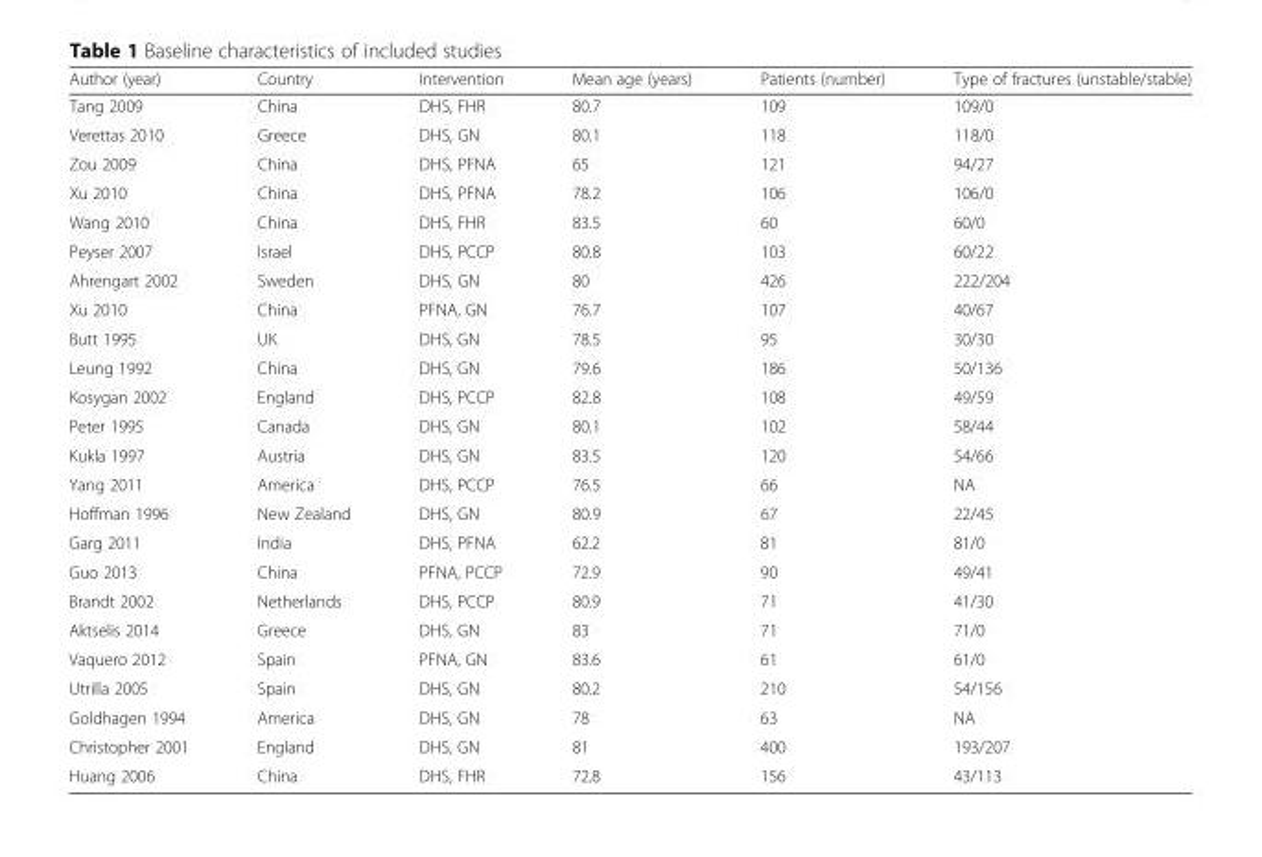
<table><thead><tr><td>Author (year)</td><td>Country</td><td>Intervention</td><td>Mean age (years)</td><td>Patients (number)</td><td>Type of fractures (unstable/stable)</td></tr></thead><tbody><tr><td>Tang 2009</td><td>China</td><td>DHS, FHR</td><td>80.7</td><td>109</td><td>109/0</td></tr><tr><td>Verettas 2010</td><td>Greece</td><td>DHS, GN</td><td>80.1</td><td>118</td><td>118/0</td></tr><tr><td>Zou 2009</td><td>China</td><td>DHS, PFNA</td><td>65</td><td>121</td><td>94/27</td></tr><tr><td>Xu 2010</td><td>China</td><td>DHS, PFNA</td><td>78.2</td><td>106</td><td>106/0</td></tr><tr><td>Wang 2010</td><td>China</td><td>DHS, FHR</td><td>83.5</td><td>60</td><td>60/0</td></tr><tr><td>Peyser 2007</td><td>Israel</td><td>DHS, PCCP</td><td>80.8</td><td>103</td><td>60/22</td></tr><tr><td>Ahrengart 2002</td><td>Sweden</td><td>DHS, GN</td><td>80</td><td>426</td><td>222/204</td></tr><tr><td>Xu 2010</td><td>China</td><td>PFNA, GN</td><td>76.7</td><td>107</td><td>40/67</td></tr><tr><td>Butt 1995</td><td>UK</td><td>DHS, GN</td><td>78.5</td><td>95</td><td>30/30</td></tr><tr><td>Leung 1992</td><td>China</td><td>DHS, GN</td><td>79.6</td><td>186</td><td>50/136</td></tr><tr><td>Kosygan 2002</td><td>England</td><td>DHS, PCCP</td><td>82.8</td><td>108</td><td>49/59</td></tr><tr><td>Peter 1995</td><td>Canada</td><td>DHS, GN</td><td>80.1</td><td>102</td><td>58/44</td></tr><tr><td>Kukla 1997</td><td>Austria</td><td>DHS, GN</td><td>83.5</td><td>120</td><td>54/66</td></tr><tr><td>Yang 2011</td><td>America</td><td>DHS, PCCP</td><td>76.5</td><td>66</td><td>NA</td></tr><tr><td>Hoffman 1996</td><td>New Zealand</td><td>DHS, GN</td><td>80.9</td><td>67</td><td>22/45</td></tr><tr><td>Garg 2011</td><td>India</td><td>DHS, PFNA</td><td>62.2</td><td>81</td><td>81/0</td></tr><tr><td>Guo 2013</td><td>China</td><td>PFNA, PCCP</td><td>72.9</td><td>90</td><td>49/41</td></tr><tr><td>Brandt 2002</td><td>Netherlands</td><td>DHS, PCCP</td><td>80.9</td><td>71</td><td>41/30</td></tr><tr><td>Aktselis 2014</td><td>Greece</td><td>DHS, GN</td><td>83</td><td>71</td><td>71/0</td></tr><tr><td>Vaquero 2012</td><td>Spain</td><td>PFNA, GN</td><td>83.6</td><td>61</td><td>61/0</td></tr><tr><td>Utrilla 2005</td><td>Spain</td><td>DHS, GN</td><td>80.2</td><td>210</td><td>54/156</td></tr><tr><td>Goldhagen 1994</td><td>America</td><td>DHS, GN</td><td>78</td><td>63</td><td>NA</td></tr><tr><td>Christopher 2001</td><td>England</td><td>DHS, GN</td><td>81</td><td>400</td><td>193/207</td></tr><tr><td>Huang 2006</td><td>China</td><td>DHS, FHR</td><td>72.8</td><td>156</td><td>43/113</td></tr></tbody></table>